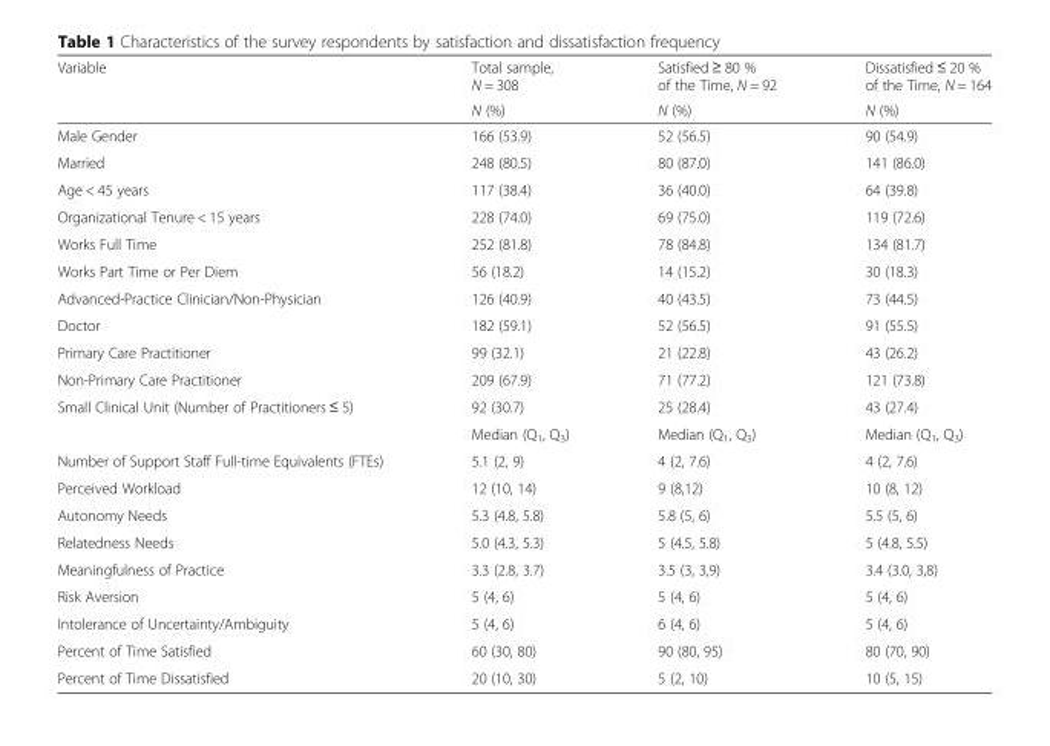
<table><thead><tr><td rowspan="2">Variable</td><td rowspan="2">Total sample, N = 308 N (%)</td><td rowspan="2">Satisfied ≥ 80 % of the Time, N = 92 N (%)</td><td rowspan="2">Dissatisfied ≤ 20 % of the Time, N = 164 N (%)</td></tr><tr></tr></thead><tbody><tr><td>Male Gender</td><td>166 (53.9)</td><td>52 (56.5)</td><td>90 (54.9)</td></tr><tr><td>Married</td><td>248 (80.5)</td><td>80 (87.0)</td><td>141 (86.0)</td></tr><tr><td>Age &lt; 45 years</td><td>117 (38.4)</td><td>36 (40.0)</td><td>64 (39.8)</td></tr><tr><td>Organizational Tenure &lt; 15 years</td><td>228 (74.0)</td><td>69 (75.0)</td><td>119 (72.6)</td></tr><tr><td>Works Full Time</td><td>252 (81.8)</td><td>78 (84.8)</td><td>134 (81.7)</td></tr><tr><td>Works Part Time or Per Diem</td><td>56 (18.2)</td><td>14 (15.2)</td><td>30 (18.3)</td></tr><tr><td>Advanced-Practice Clinician/Non-Physician</td><td>126 (40.9)</td><td>40 (43.5)</td><td>73 (44.5)</td></tr><tr><td>Doctor</td><td>182 (59.1)</td><td>52 (56.5)</td><td>91 (55.5)</td></tr><tr><td>Primary Care Practitioner</td><td>99 (32.1)</td><td>21 (22.8)</td><td>43 (26.2)</td></tr><tr><td>Non-Primary Care Practitioner</td><td>209 (67.9)</td><td>71 (77.2)</td><td>121 (73.8)</td></tr><tr><td rowspan="2">Small Clinical Unit (Number of Practitioners ≤ 5)</td><td>92 (30.7)</td><td>25 (28.4)</td><td>43 (27.4)</td></tr><tr><td>Median (Q<sub>1</sub>, Q<sub>3</sub>)</td><td>Median (Q<sub>1</sub>, Q<sub>3</sub>)</td><td>Median (Q<sub>1</sub>, Q<sub>3</sub>)</td></tr><tr><td>Number of Support Staff Full-time Equivalents (FTEs)</td><td>5.1 (2, 9)</td><td>4 (2, 7.6)</td><td>4 (2, 7.6)</td></tr><tr><td>Perceived Workload</td><td>12 (10, 14)</td><td>9 (8,12)</td><td>10 (8, 12)</td></tr><tr><td>Autonomy Needs</td><td>5.3 (4.8, 5.8)</td><td>5.8 (5, 6)</td><td>5.5 (5, 6)</td></tr><tr><td>Relatedness Needs</td><td>5.0 (4.3, 5.3)</td><td>5 (4.5, 5.8)</td><td>5 (4.8, 5.5)</td></tr><tr><td>Meaningfulness of Practice</td><td>3.3 (2.8, 3.7)</td><td>3.5 (3, 3,9)</td><td>3.4 (3.0, 3,8)</td></tr><tr><td>Risk Aversion</td><td>5 (4, 6)</td><td>5 (4, 6)</td><td>5 (4, 6)</td></tr><tr><td>Intolerance of Uncertainty/Ambiguity</td><td>5 (4, 6)</td><td>6 (4, 6)</td><td>5 (4, 6)</td></tr><tr><td>Percent of Time Satisfied</td><td>60 (30, 80)</td><td>90 (80, 95)</td><td>80 (70, 90)</td></tr><tr><td>Percent of Time Dissatisfied</td><td>20 (10, 30)</td><td>5 (2, 10)</td><td>10 (5, 15)</td></tr></tbody></table>